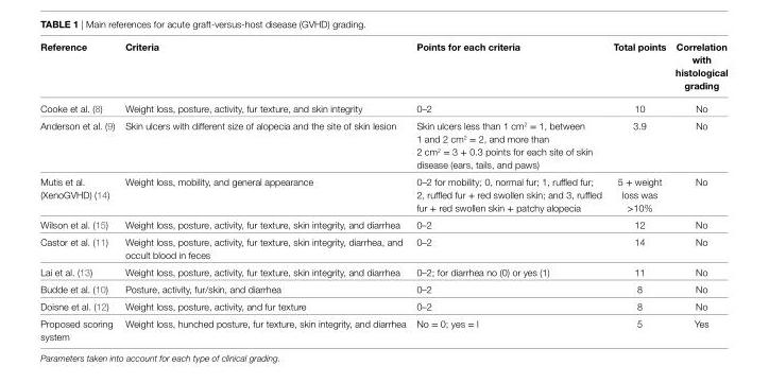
<table><thead><tr><td>reference</td><td>criteria</td><td>Points for each criteria</td><td>Total points</td><td>correlation with histological grading</td></tr></thead><tbody><tr><td>Cooke et al. (8)</td><td>Weight loss, posture, activity, fur texture, and skin integrity</td><td>0–2</td><td>10</td><td>No</td></tr><tr><td>Anderson et al. (9)</td><td>Skin ulcers with different size of alopecia and the site of skin lesion</td><td>Skin ulcers less than 1 cm<sup>2</sup> = 1, between 1 and 2 cm<sup>2</sup> = 2, and more than 2 cm<sup>2</sup> = 3 + 0.3 points for each site of skin disease (ears, tails, and paws)</td><td>3.9</td><td>No</td></tr><tr><td>Mutis et al. (XenoGVHD) (14)</td><td>Weight loss, mobility, and general appearance</td><td>0–2 for mobility; 0, normal fur; 1, ruffled fur; 2, ruffled fur + red swollen skin; and 3, ruffled fur + red swollen skin + patchy alopecia</td><td>5 + weight loss was &gt;10%</td><td>No</td></tr><tr><td>Wilson et al. (15)</td><td>Weight loss, posture, activity, fur texture, skin integrity, and diarrhea</td><td>0–2</td><td>12</td><td>No</td></tr><tr><td>Castor et al. (11)</td><td>Weight loss, posture, activity, fur texture, skin integrity, diarrhea, and occult blood in feces</td><td>0–2</td><td>14</td><td>No</td></tr><tr><td>Lai et al. (13)</td><td>Weight loss, posture, activity, fur texture, skin integrity, and diarrhea</td><td>0–2; for diarrhea no (0) or yes (1)</td><td>11</td><td>No</td></tr><tr><td>Budde et al. (10)</td><td>Posture, activity, fur/skin, and diarrhea</td><td>0–2</td><td>8</td><td>No</td></tr><tr><td>Doisne et al. (12)</td><td>Weight loss, posture, activity, and fur texture</td><td>0–2</td><td>8</td><td>No</td></tr><tr><td>Proposed scoring system</td><td>Weight loss, hunched posture, fur texture, skin integrity, and diarrhea</td><td>No = 0; yes = l</td><td>5</td><td>Yes</td></tr></tbody></table>